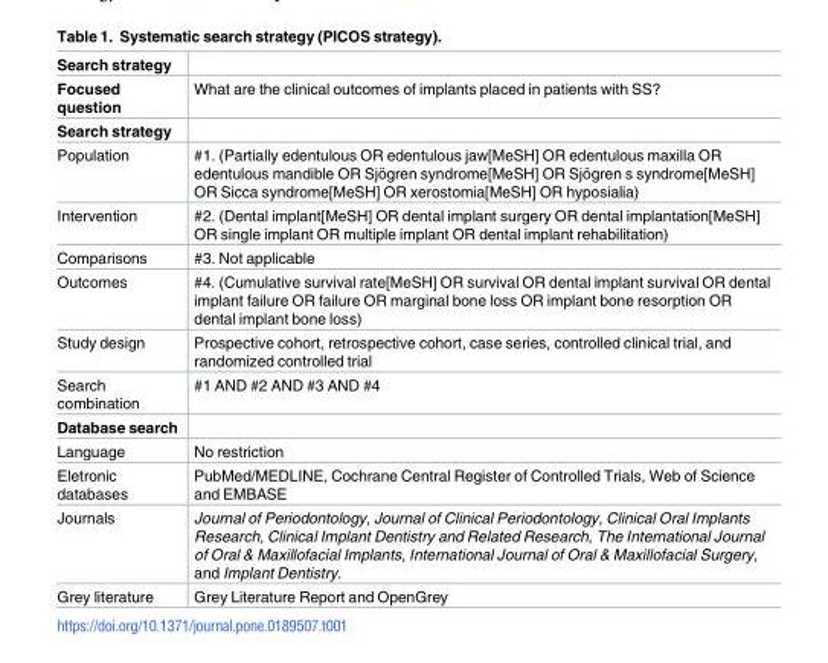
<table><tbody><tr><td colspan="2">Search strategy</td></tr><tr><td>Focused question</td><td>What are the clinical outcomes of implants placed in patients with SS?</td></tr><tr><td colspan="2">Search strategy</td></tr><tr><td>Population</td><td>#1. (Partially edentulous OR edentulous jaw[MeSH] OR edentulous maxilla OR edentulous mandible OR Sjo¨gren syndrome[MeSH] OR Sjo¨gren s syndrome[MeSH] OR Sicca syndrome[MeSH] OR xerostomia[MeSH] OR hyposialia)</td></tr><tr><td>Intervention</td><td>#2. (Dental implant[MeSH] OR dental implant surgery OR dental implantation[MeSH] OR single implant OR multiple implant OR dental implant rehabilitation)</td></tr><tr><td>Comparisons</td><td>#3. Not applicable</td></tr><tr><td>Outcomes</td><td>#4. (Cumulative survival rate[MeSH] OR survival OR dental implant survival OR dental implant failure OR failure OR marginal bone loss OR implant bone resorption OR dental implant bone loss)</td></tr><tr><td>Study design</td><td>Prospective cohort, retrospective cohort, case series, controlled clinical trial, and randomized controlled trial</td></tr><tr><td>Search combination</td><td>#1 AND #2 AND #3 AND #4</td></tr><tr><td colspan="2">Database search</td></tr><tr><td>Language</td><td>No restriction</td></tr><tr><td>Eletronic databases</td><td>PubMed/MEDLINE, Cochrane Central Register of Controlled Trials, Web of Science and EMBASE</td></tr><tr><td>Journals</td><td>Journal of Periodontology, Journal of Clinical Periodontology, Clinical Oral Implants Research, Clinical Implant Dentistry and Related Research, The International Journal of Oral &amp; Maxillofacial Implants, International Journal of Oral &amp; Maxillofacial Surgery, and Implant Dentistry.</td></tr><tr><td>Grey literature</td><td>Grey Literature Report and OpenGrey</td></tr></tbody></table>